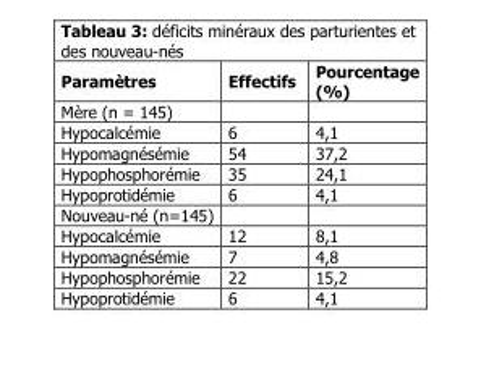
<table><thead><tr><td>Paramètres</td><td>Effectifs</td><td>Pourcentage (%)</td></tr></thead><tbody><tr><td colspan="3">Mère (n = 145)</td></tr><tr><td>Hypocalcémie</td><td>6</td><td>4,1</td></tr><tr><td>Hypomagnésémie</td><td>54</td><td>37,2</td></tr><tr><td>Hypophosphorémie</td><td>35</td><td>24,1</td></tr><tr><td>Hypoprotidémie</td><td>6</td><td>4,1</td></tr><tr><td colspan="3">Nouveau-né (n=145)</td></tr><tr><td>Hypocalcémie</td><td>12</td><td>8,1</td></tr><tr><td>Hypomagnésémie</td><td>7</td><td>4,8</td></tr><tr><td>Hypophosphorémie</td><td>22</td><td>15,2</td></tr><tr><td>Hypoprotidémie</td><td>6</td><td>4,1</td></tr></tbody></table>